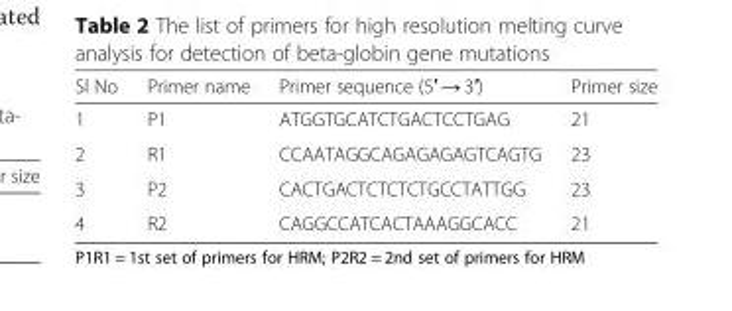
<table><thead><tr><td>Sl No</td><td>Primer name</td><td>Primer sequence (5′ → 3′)</td><td>Primer size</td></tr></thead><tbody><tr><td>1</td><td>P1</td><td>ATGGTGCATCTGACTCCTGAG</td><td>21</td></tr><tr><td>2</td><td>R1</td><td>CCAATAGGCAGAGAGAGTCAGTG</td><td>23</td></tr><tr><td>3</td><td>P2</td><td>CACTGACTCTCTCTGCCTATTGG</td><td>23</td></tr><tr><td>4</td><td>R2</td><td>CAGGCCATCACTAAAGGCACC</td><td>21</td></tr></tbody></table>